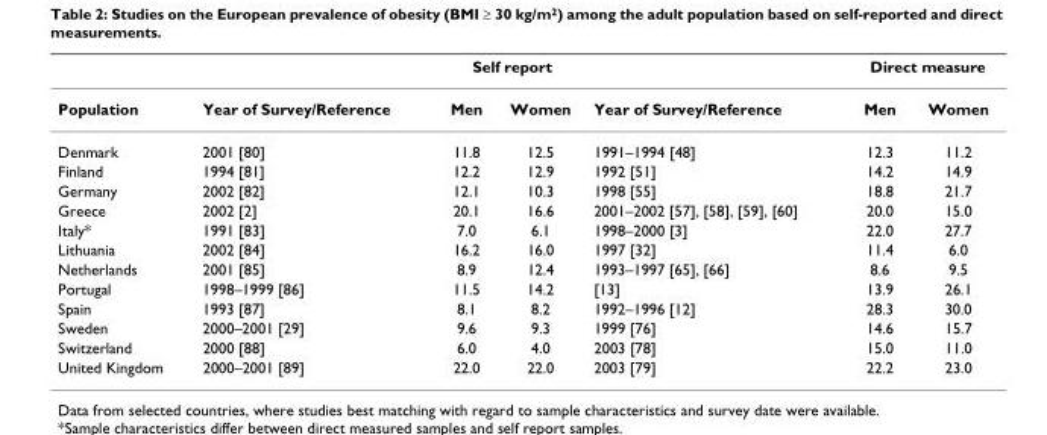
<table><thead><tr><td rowspan="2">Population</td><td rowspan="2">Year of Survey/Reference</td><td colspan="2">Self report</td><td rowspan="2">Year of Survey/Reference</td><td colspan="2">Direct measure</td></tr><tr><td>Men</td><td>Women</td><td>Men</td><td>Women</td></tr></thead><tbody><tr><td>Denmark</td><td>2001 [80]</td><td>11.8</td><td>12.5</td><td>1991–1994 [48]</td><td>12.3</td><td>11.2</td></tr><tr><td>Finland</td><td>1994 [81]</td><td>12.2</td><td>12.9</td><td>1992 [51]</td><td>14.2</td><td>14.9</td></tr><tr><td>Germany</td><td>2002 [82]</td><td>12.1</td><td>10.3</td><td>1998 [55]</td><td>18.8</td><td>21.7</td></tr><tr><td>Greece</td><td>2002 [2]</td><td>20.1</td><td>16.6</td><td>2001–2002 [57], [58], [59], [60]</td><td>20.0</td><td>15.0</td></tr><tr><td>Italy*</td><td>1991 [83]</td><td>7.0</td><td>6.1</td><td>1998–2000 [3]</td><td>22.0</td><td>27.7</td></tr><tr><td>Lithuania</td><td>2002 [84]</td><td>16.2</td><td>16.0</td><td>1997 [32]</td><td>11.4</td><td>6.0</td></tr><tr><td>Netherlands</td><td>2001 [85]</td><td>8.9</td><td>12.4</td><td>1993–1997 [65], [66]</td><td>8.6</td><td>9.5</td></tr><tr><td>Portugal</td><td>1998–1999 [86]</td><td>11.5</td><td>14.2</td><td>[13]</td><td>13.9</td><td>26.1</td></tr><tr><td>Spain</td><td>1993 [87]</td><td>8.1</td><td>8.2</td><td>1992–1996 [12]</td><td>28.3</td><td>30.0</td></tr><tr><td>Sweden</td><td>2000–2001 [29]</td><td>9.6</td><td>9.3</td><td>1999 [76]</td><td>14.6</td><td>15.7</td></tr><tr><td>Switzerland</td><td>2000 [88]</td><td>6.0</td><td>4.0</td><td>2003 [78]</td><td>15.0</td><td>11.0</td></tr><tr><td>United Kingdom</td><td>2000–2001 [89]</td><td>22.0</td><td>22.0</td><td>2003 [79]</td><td>22.2</td><td>23.0</td></tr></tbody></table>